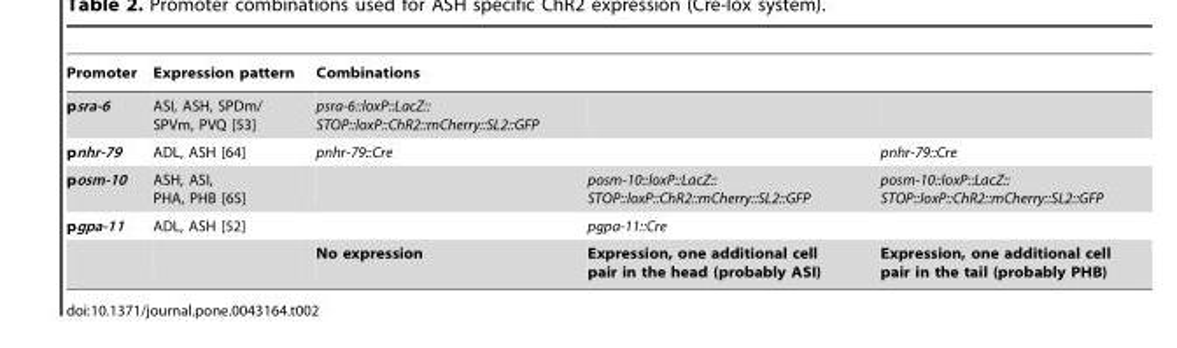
<table><thead><tr><td rowspan="2">Promoter psra-6</td><td rowspan="2">Expression pattern ASI, ASH, SPDm/ SPVm, PVQ [53]</td><td colspan="3">Combinations</td></tr><tr><td>psra-6::loxP::LacZ:: STOP::loxP::ChR2::mCherry::SL2::GFP</td><td></td><td></td></tr></thead><tbody><tr><td>pnhr-79</td><td>ADL, ASH [64]</td><td>pnhr-79::Cre</td><td></td><td>pnhr-79::Cre</td></tr><tr><td>posm-10</td><td>ASH, ASI, PHA, PHB [65]</td><td></td><td>posm-10::loxP::LacZ:: STOP::loxP::ChR2::mCherry::SL2::GFP</td><td>posm-10::loxP::LacZ:: STOP::loxP::ChR2::mCherry::SL2::GFP</td></tr><tr><td rowspan="2">pgpa-11</td><td>ADL, ASH [52]</td><td></td><td>pgpa-11::Cre</td><td></td></tr><tr><td></td><td>No expression</td><td>Expression, one additional cell pair in the head (probably ASI)</td><td>Expression, one additional cell pair in the tail (probably PHB)</td></tr></tbody></table>